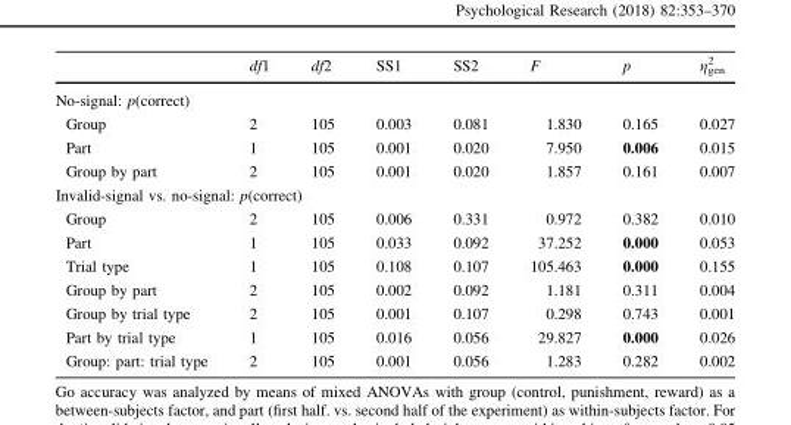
<table><thead><tr><td></td><td>df1</td><td>df2</td><td>SS1</td><td>SS2</td><td>F</td><td>p</td><td>η<sub>gen</sub> <sup>2</sup></td></tr></thead><tbody><tr><td colspan="8">No-signal: p(correct)</td></tr><tr><td>Group</td><td>2</td><td>105</td><td>0.003</td><td>0.081</td><td>1.830</td><td>0.165</td><td>0.027</td></tr><tr><td>Part</td><td>1</td><td>105</td><td>0.001</td><td>0.020</td><td>7.950</td><td>0.006</td><td>0.015</td></tr><tr><td>Group by part</td><td>2</td><td>105</td><td>0.001</td><td>0.020</td><td>1.857</td><td>0.161</td><td>0.007</td></tr><tr><td colspan="8">Invalid-signal vs. no-signal: p(correct)</td></tr><tr><td>Group</td><td>2</td><td>105</td><td>0.006</td><td>0.331</td><td>0.972</td><td>0.382</td><td>0.010</td></tr><tr><td>Part</td><td>1</td><td>105</td><td>0.033</td><td>0.092</td><td>37.252</td><td>0.000</td><td>0.053</td></tr><tr><td>Trial type</td><td>1</td><td>105</td><td>0.108</td><td>0.107</td><td>105.463</td><td>0.000</td><td>0.155</td></tr><tr><td>Group by part</td><td>2</td><td>105</td><td>0.002</td><td>0.092</td><td>1.181</td><td>0.311</td><td>0.004</td></tr><tr><td>Group by trial type</td><td>2</td><td>105</td><td>0.001</td><td>0.107</td><td>0.298</td><td>0.743</td><td>0.001</td></tr><tr><td>Part by trial type</td><td>1</td><td>105</td><td>0.016</td><td>0.056</td><td>29.827</td><td>0.000</td><td>0.026</td></tr><tr><td>Group: part: trial type</td><td>2</td><td>105</td><td>0.001</td><td>0.056</td><td>1.283</td><td>0.282</td><td>0.002</td></tr></tbody></table>